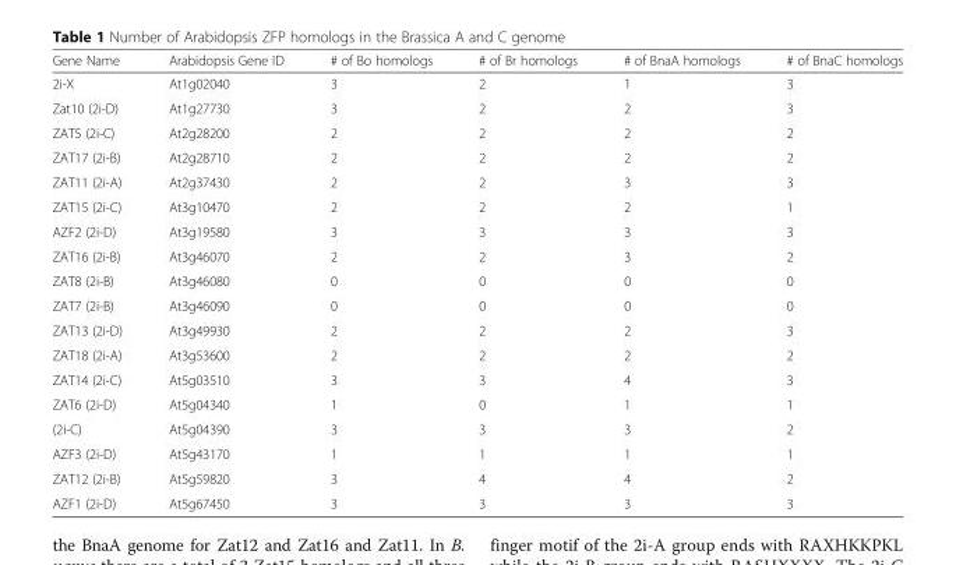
<table><thead><tr><td>Gene Name</td><td>Arabidopsis Gene ID</td><td># of Bo homologs</td><td># of Br homologs</td><td># of BnaA homologs</td><td># of BnaC homologs</td></tr></thead><tbody><tr><td>2i-X</td><td>At1g02040</td><td>3</td><td>2</td><td>1</td><td>3</td></tr><tr><td>Zat10 (2i-D)</td><td>At1g27730</td><td>3</td><td>2</td><td>2</td><td>3</td></tr><tr><td>ZAT5 (2i-C)</td><td>At2g28200</td><td>2</td><td>2</td><td>2</td><td>2</td></tr><tr><td>ZAT17 (2i-B)</td><td>At2g28710</td><td>2</td><td>2</td><td>2</td><td>2</td></tr><tr><td>ZAT11 (2i-A)</td><td>At2g37430</td><td>2</td><td>2</td><td>3</td><td>3</td></tr><tr><td>ZAT15 (2i-C)</td><td>At3g10470</td><td>2</td><td>2</td><td>2</td><td>1</td></tr><tr><td>AZF2 (2i-D)</td><td>At3g19580</td><td>3</td><td>3</td><td>3</td><td>3</td></tr><tr><td>ZAT16 (2i-B)</td><td>At3g46070</td><td>2</td><td>2</td><td>3</td><td>2</td></tr><tr><td>ZAT8 (2i-B)</td><td>At3g46080</td><td>0</td><td>0</td><td>0</td><td>0</td></tr><tr><td>ZAT7 (2i-B)</td><td>At3g46090</td><td>0</td><td>0</td><td>0</td><td>0</td></tr><tr><td>ZAT13 (2i-D)</td><td>At3g49930</td><td>2</td><td>2</td><td>2</td><td>3</td></tr><tr><td>ZAT18 (2i-A)</td><td>At3g53600</td><td>2</td><td>2</td><td>2</td><td>2</td></tr><tr><td>ZAT14 (2i-C)</td><td>At5g03510</td><td>3</td><td>3</td><td>4</td><td>3</td></tr><tr><td>ZAT6 (2i-D)</td><td>At5g04340</td><td>1</td><td>0</td><td>1</td><td>1</td></tr><tr><td>(2i-C)</td><td>At5g04390</td><td>3</td><td>3</td><td>3</td><td>2</td></tr><tr><td>AZF3 (2i-D)</td><td>At5g43170</td><td>1</td><td>1</td><td>1</td><td>1</td></tr><tr><td>ZAT12 (2i-B)</td><td>At5g59820</td><td>3</td><td>4</td><td>4</td><td>2</td></tr><tr><td>AZF1 (2i-D)</td><td>At5g67450</td><td>3</td><td>3</td><td>3</td><td>3</td></tr></tbody></table>